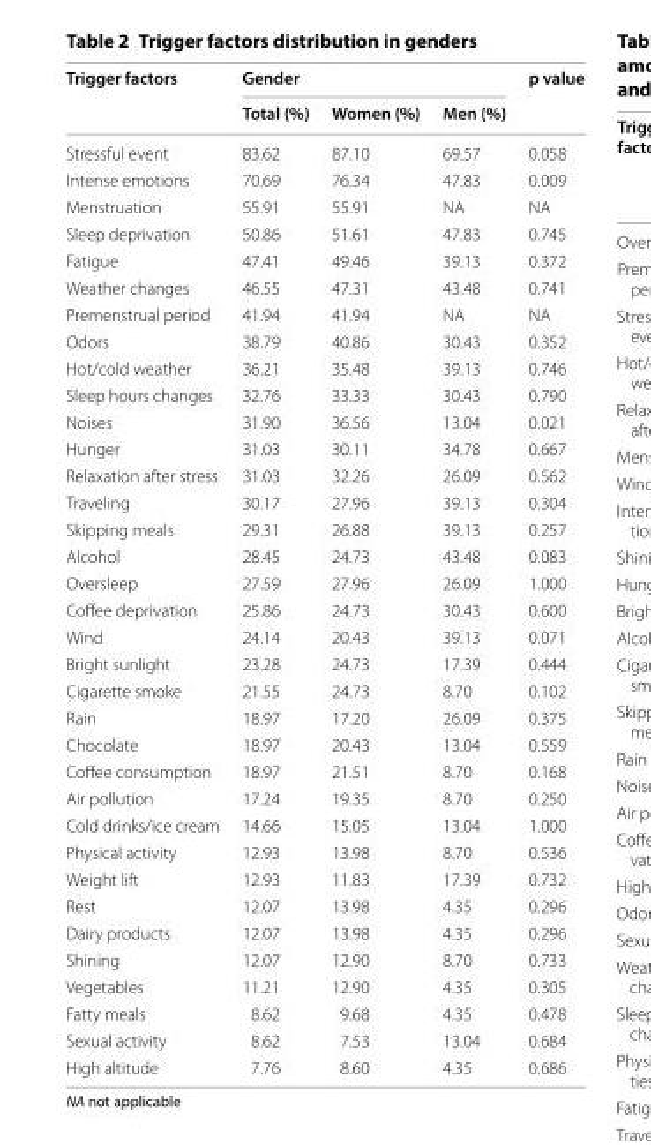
<table><thead><tr><td rowspan="2">Trigger factors</td><td colspan="3">Gender</td><td rowspan="2">p value</td></tr><tr><td>Total (%)</td><td>Women (%)</td><td>Men (%)</td></tr></thead><tbody><tr><td>Stressful event</td><td>83.62</td><td>87.10</td><td>69.57</td><td>0.058</td></tr><tr><td>Intense emotions</td><td>70.69</td><td>76.34</td><td>47.83</td><td>0.009</td></tr><tr><td>Menstruation</td><td>55.91</td><td>55.91</td><td>NA</td><td>NA</td></tr><tr><td>Sleep deprivation</td><td>50.86</td><td>51.61</td><td>47.83</td><td>0.745</td></tr><tr><td>Fatigue</td><td>47.41</td><td>49.46</td><td>39.13</td><td>0.372</td></tr><tr><td>Weather changes</td><td>46.55</td><td>47.31</td><td>43.48</td><td>0.741</td></tr><tr><td>Premenstrual period</td><td>41.94</td><td>41.94</td><td>NA</td><td>NA</td></tr><tr><td>Odors</td><td>38.79</td><td>40.86</td><td>30.43</td><td>0.352</td></tr><tr><td>Hot/cold weather</td><td>36.21</td><td>35.48</td><td>39.13</td><td>0.746</td></tr><tr><td>Sleep hours changes</td><td>32.76</td><td>33.33</td><td>30.43</td><td>0.790</td></tr><tr><td>Noises</td><td>31.90</td><td>36.56</td><td>13.04</td><td>0.021</td></tr><tr><td>Hunger</td><td>31.03</td><td>30.11</td><td>34.78</td><td>0.667</td></tr><tr><td>Relaxation after stress</td><td>31.03</td><td>32.26</td><td>26.09</td><td>0.562</td></tr><tr><td>Traveling</td><td>30.17</td><td>27.96</td><td>39.13</td><td>0.304</td></tr><tr><td>Skipping meals</td><td>29.31</td><td>26.88</td><td>39.13</td><td>0.257</td></tr><tr><td>Alcohol</td><td>28.45</td><td>24.73</td><td>43.48</td><td>0.083</td></tr><tr><td>Oversleep</td><td>27.59</td><td>27.96</td><td>26.09</td><td>1.000</td></tr><tr><td>Coffee deprivation</td><td>25.86</td><td>24.73</td><td>30.43</td><td>0.600</td></tr><tr><td>Wind</td><td>24.14</td><td>20.43</td><td>39.13</td><td>0.071</td></tr><tr><td>Bright sunlight</td><td>23.28</td><td>24.73</td><td>17.39</td><td>0.444</td></tr><tr><td>Cigarette smoke</td><td>21.55</td><td>24.73</td><td>8.70</td><td>0.102</td></tr><tr><td>Rain</td><td>18.97</td><td>17.20</td><td>26.09</td><td>0.375</td></tr><tr><td>Chocolate</td><td>18.97</td><td>20.43</td><td>13.04</td><td>0.559</td></tr><tr><td>Coffee consumption</td><td>18.97</td><td>21.51</td><td>8.70</td><td>0.168</td></tr><tr><td>Air pollution</td><td>17.24</td><td>19.35</td><td>8.70</td><td>0.250</td></tr><tr><td>Cold drinks/ice cream</td><td>14.66</td><td>15.05</td><td>13.04</td><td>1.000</td></tr><tr><td>Physical activity</td><td>12.93</td><td>13.98</td><td>8.70</td><td>0.536</td></tr><tr><td>Weight lift</td><td>12.93</td><td>11.83</td><td>17.39</td><td>0.732</td></tr><tr><td>Rest</td><td>12.07</td><td>13.98</td><td>4.35</td><td>0.296</td></tr><tr><td>Dairy products</td><td>12.07</td><td>13.98</td><td>4.35</td><td>0.296</td></tr><tr><td>Shining</td><td>12.07</td><td>12.90</td><td>8.70</td><td>0.733</td></tr><tr><td>Vegetables</td><td>11.21</td><td>12.90</td><td>4.35</td><td>0.305</td></tr><tr><td>Fatty meals</td><td>8.62</td><td>9.68</td><td>4.35</td><td>0.478</td></tr><tr><td>Sexual activity</td><td>8.62</td><td>7.53</td><td>13.04</td><td>0.684</td></tr><tr><td>High altitude</td><td>7.76</td><td>8.60</td><td>4.35</td><td>0.686</td></tr></tbody></table>